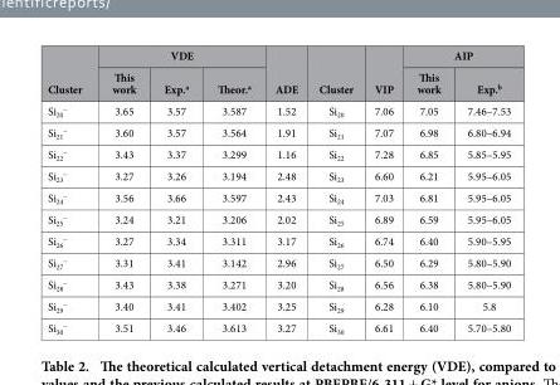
<table><thead><tr><td rowspan="2">Cluster</td><td colspan="3">VDE</td><td rowspan="2">ADE</td><td rowspan="2">Cluster</td><td rowspan="2">VIP</td><td colspan="2">AIP</td></tr><tr><td>This work</td><td>Exp.<sup>a</sup></td><td>Theor.<sup>a</sup></td><td>This work</td><td>Exp.<sup>b</sup></td></tr></thead><tbody><tr><td>Si<sub>20</sub> <sup>–</sup></td><td>3.65</td><td>3.57</td><td>3.587</td><td>1.52</td><td>Si<sub>20</sub></td><td>7.06</td><td>7.05</td><td>7.46–7.53</td></tr><tr><td>Si<sub>21</sub> <sup>–</sup></td><td>3.60</td><td>3.57</td><td>3.564</td><td>1.91</td><td>Si<sub>21</sub></td><td>7.07</td><td>6.98</td><td>6.80–6.94</td></tr><tr><td>Si<sub>22</sub> <sup>–</sup></td><td>3.43</td><td>3.37</td><td>3.299</td><td>1.16</td><td>Si<sub>22</sub></td><td>7.28</td><td>6.85</td><td>5.85–5.95</td></tr><tr><td>Si<sub>23</sub> <sup>–</sup></td><td>3.27</td><td>3.26</td><td>3.194</td><td>2.48</td><td>Si<sub>23</sub></td><td>6.60</td><td>6.21</td><td>5.95–6.05</td></tr><tr><td>Si<sub>24</sub> <sup>–</sup></td><td>3.56</td><td>3.66</td><td>3.597</td><td>2.43</td><td>Si<sub>24</sub></td><td>7.03</td><td>6.81</td><td>5.95–6.05</td></tr><tr><td>Si<sub>25</sub> <sup>–</sup></td><td>3.24</td><td>3.21</td><td>3.206</td><td>2.02</td><td>Si<sub>25</sub></td><td>6.89</td><td>6.59</td><td>5.95–6.05</td></tr><tr><td>Si<sub>26</sub> <sup>–</sup></td><td>3.27</td><td>3.34</td><td>3.311</td><td>3.17</td><td>Si<sub>26</sub></td><td>6.74</td><td>6.40</td><td>5.90–5.95</td></tr><tr><td>Si<sub>27</sub> <sup>–</sup></td><td>3.31</td><td>3.41</td><td>3.142</td><td>2.96</td><td>Si<sub>27</sub></td><td>6.50</td><td>6.29</td><td>5.80–5.90</td></tr><tr><td>Si<sub>28</sub> <sup>–</sup></td><td>3.43</td><td>3.38</td><td>3.271</td><td>3.20</td><td>Si<sub>28</sub></td><td>6.56</td><td>6.38</td><td>5.80–5.90</td></tr><tr><td>Si<sub>29</sub> <sup>–</sup></td><td>3.40</td><td>3.41</td><td>3.402</td><td>3.25</td><td>Si<sub>29</sub></td><td>6.28</td><td>6.10</td><td>5.8</td></tr><tr><td>Si<sub>30</sub> <sup>–</sup></td><td>3.51</td><td>3.46</td><td>3.613</td><td>3.27</td><td>Si<sub>30</sub></td><td>6.61</td><td>6.40</td><td>5.70–5.80</td></tr></tbody></table>